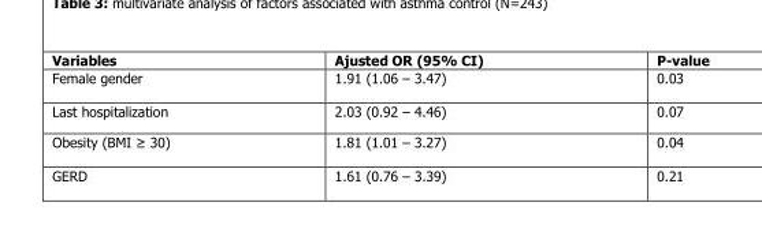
<table><thead><tr><td>Variables</td><td>Ajusted OR (95% CI)</td><td>P-value</td></tr></thead><tbody><tr><td>Female gender</td><td>1.91 (1.06 – 3.47)</td><td>0.03</td></tr><tr><td>Last hospitalization</td><td>2.03 (0.92 – 4.46)</td><td>0.07</td></tr><tr><td>Obesity (BMI ≥ 30)</td><td>1.81 (1.01 – 3.27)</td><td>0.04</td></tr><tr><td>GERD</td><td>1.61 (0.76 – 3.39)</td><td>0.21</td></tr></tbody></table>